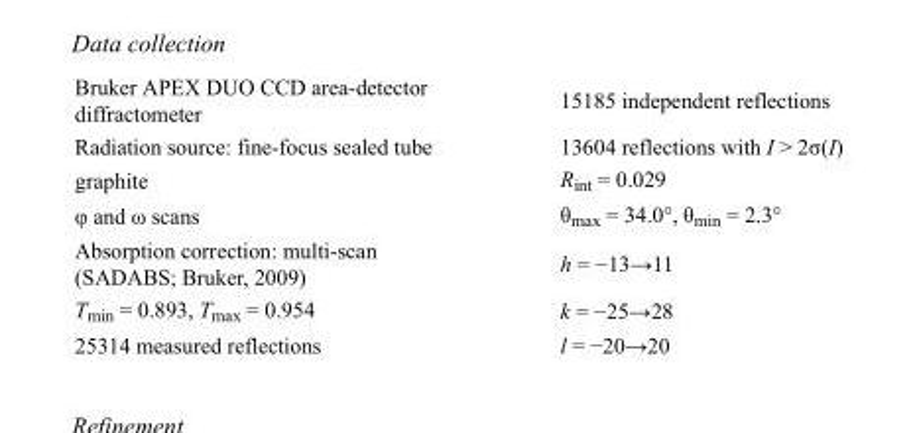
<table><tbody><tr><td>Bruker APEX DUO CCD area-detector diffractometer</td><td>15185 independent reflections</td></tr><tr><td>Radiation source: fine-focus sealed tube</td><td>13604 reflections with I &gt; 2σ(I)</td></tr><tr><td>graphite</td><td>R<sub>int</sub> = 0.029</td></tr><tr><td>φ and ω scans</td><td>θ<sub>max</sub> = 34.0°, θ<sub>min</sub> = 2.3°</td></tr><tr><td>Absorption correction: multi-scan (SADABS; Bruker, 2009)</td><td>h = −13→11</td></tr><tr><td>T<sub>min</sub> = 0.893, T<sub>max</sub> = 0.954</td><td>k = −25→28</td></tr><tr><td>25314 measured reflections</td><td>l = −20→20</td></tr></tbody></table>